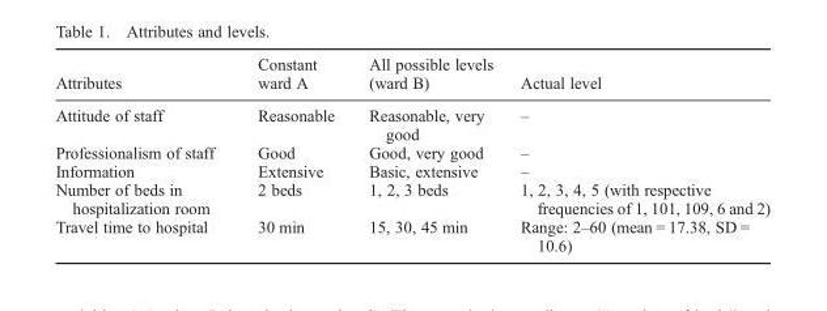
<table><thead><tr><td>Attributes</td><td>Constant ward A</td><td>All possible levels (ward B)</td><td>Actual level</td></tr></thead><tbody><tr><td>Attitude of staff</td><td>Reasonable</td><td>Reasonable, very good</td><td>–</td></tr><tr><td>Professionalism of staff</td><td>Good</td><td>Good, very good</td><td>–</td></tr><tr><td>Information</td><td>Extensive</td><td>Basic, extensive</td><td>–</td></tr><tr><td>Number of beds in hospitalization room</td><td>2 beds</td><td>1, 2, 3 beds</td><td>1, 2, 3, 4, 5 (with respective frequencies of 1, 101, 109, 6 and 2)</td></tr><tr><td>Travel time to hospital</td><td>30 min</td><td>15, 30, 45 min</td><td>Range: 2–60 (mean = 17.38, SD = 10.6)</td></tr></tbody></table>